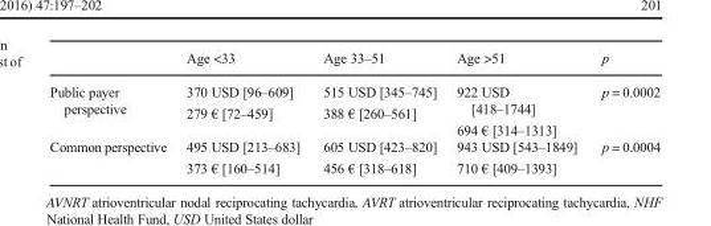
<table><thead><tr><td></td><td>Age &lt;33</td><td>Age 33–51</td><td>Age &gt;51</td><td>p</td></tr></thead><tbody><tr><td>Public payer perspective</td><td>370 USD [96–609] 279 € [72–459]</td><td>515 USD [345–745] 388 € [260–561]</td><td>922 USD [418–1744] 694 € [314–1313]</td><td>p = 0.0002</td></tr><tr><td>Common perspective</td><td>495 USD [213–683] 373 € [160–514]</td><td>605 USD [423–820] 456 € [318–618]</td><td>943 USD [543–1849] 710 € [409–1393]</td><td>p = 0.0004</td></tr></tbody></table>